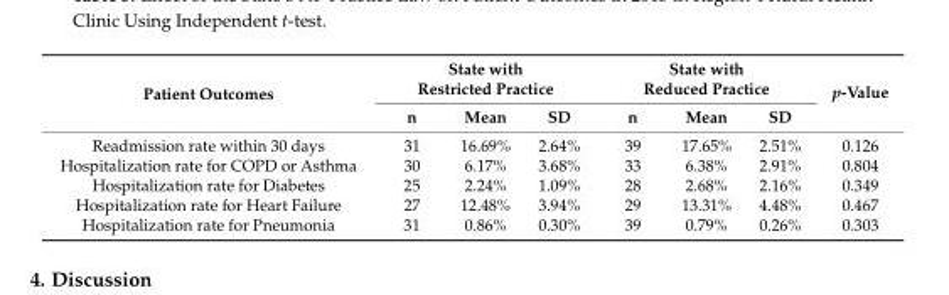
<table><thead><tr><td rowspan="2">Patient Outcomes</td><td colspan="3">State with Restricted Practice</td><td colspan="3">State with Reduced Practice</td><td rowspan="2">p-Value</td></tr><tr><td>n</td><td>Mean</td><td>SD</td><td>n</td><td>Mean</td><td>SD</td></tr></thead><tbody><tr><td>Readmission rate within 30 days</td><td>31</td><td>16.69%</td><td>2.64%</td><td>39</td><td>17.65%</td><td>2.51%</td><td>0.126</td></tr><tr><td>Hospitalization rate for COPD or Asthma</td><td>30</td><td>6.17%</td><td>3.68%</td><td>33</td><td>6.38%</td><td>2.91%</td><td>0.804</td></tr><tr><td>Hospitalization rate for Diabetes</td><td>25</td><td>2.24%</td><td>1.09%</td><td>28</td><td>2.68%</td><td>2.16%</td><td>0.349</td></tr><tr><td>Hospitalization rate for Heart Failure</td><td>27</td><td>12.48%</td><td>3.94%</td><td>29</td><td>13.31%</td><td>4.48%</td><td>0.467</td></tr><tr><td>Hospitalization rate for Pneumonia</td><td>31</td><td>0.86%</td><td>0.30%</td><td>39</td><td>0.79%</td><td>0.26%</td><td>0.303</td></tr></tbody></table>